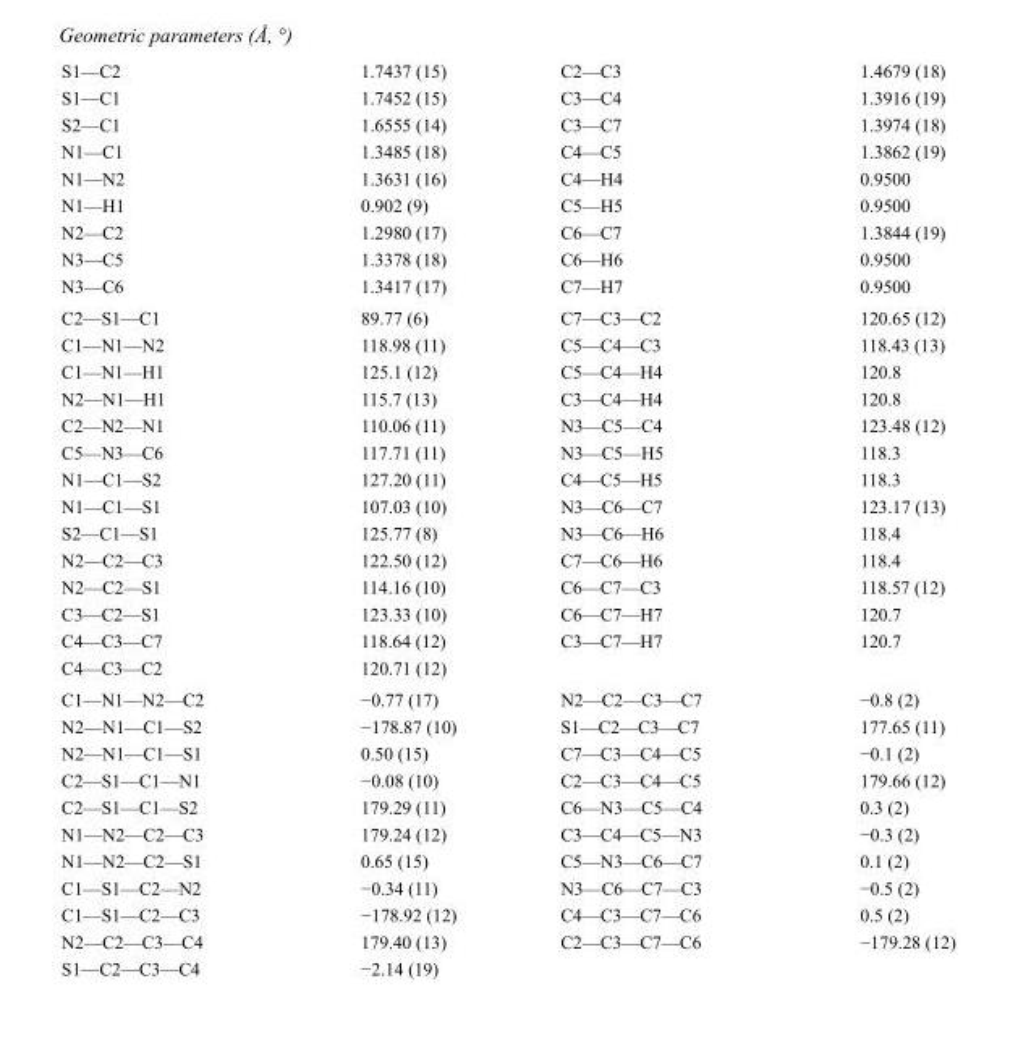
<table><tbody><tr><td>S1—C2</td><td>1.7437 (15)</td><td>C2—C3</td><td>1.4679 (18)</td></tr><tr><td>S1—C1</td><td>1.7452 (15)</td><td>C3—C4</td><td>1.3916 (19)</td></tr><tr><td>S2—C1</td><td>1.6555 (14)</td><td>C3—C7</td><td>1.3974 (18)</td></tr><tr><td>N1—C1</td><td>1.3485 (18)</td><td>C4—C5</td><td>1.3862 (19)</td></tr><tr><td>N1—N2</td><td>1.3631 (16)</td><td>C4—H4</td><td>0.9500</td></tr><tr><td>N1—H1</td><td>0.902 (9)</td><td>C5—H5</td><td>0.9500</td></tr><tr><td>N2—C2</td><td>1.2980 (17)</td><td>C6—C7</td><td>1.3844 (19)</td></tr><tr><td>N3—C5</td><td>1.3378 (18)</td><td>C6—H6</td><td>0.9500</td></tr><tr><td>N3—C6</td><td>1.3417 (17)</td><td>C7—H7</td><td>0.9500</td></tr><tr><td>C2—S1—C1</td><td>89.77 (6)</td><td>C7—C3—C2</td><td>120.65 (12)</td></tr><tr><td>C1—N1—N2</td><td>118.98 (11)</td><td>C5—C4—C3</td><td>118.43 (13)</td></tr><tr><td>C1—N1—H1</td><td>125.1 (12)</td><td>C5—C4—H4</td><td>120.8</td></tr><tr><td>N2—N1—H1</td><td>115.7 (13)</td><td>C3—C4—H4</td><td>120.8</td></tr><tr><td>C2—N2—N1</td><td>110.06 (11)</td><td>N3—C5—C4</td><td>123.48 (12)</td></tr><tr><td>C5—N3—C6</td><td>117.71 (11)</td><td>N3—C5—H5</td><td>118.3</td></tr><tr><td>N1—C1—S2</td><td>127.20 (11)</td><td>C4—C5—H5</td><td>118.3</td></tr><tr><td>N1—C1—S1</td><td>107.03 (10)</td><td>N3—C6—C7</td><td>123.17 (13)</td></tr><tr><td>S2—C1—S1</td><td>125.77 (8)</td><td>N3—C6—H6</td><td>118.4</td></tr><tr><td>N2—C2—C3</td><td>122.50 (12)</td><td>C7—C6—H6</td><td>118.4</td></tr><tr><td>N2—C2—S1</td><td>114.16 (10)</td><td>C6—C7—C3</td><td>118.57 (12)</td></tr><tr><td>C3—C2—S1</td><td>123.33 (10)</td><td>C6—C7—H7</td><td>120.7</td></tr><tr><td>C4—C3—C7</td><td>118.64 (12)</td><td>C3—C7—H7</td><td>120.7</td></tr><tr><td>C4—C3—C2</td><td>120.71 (12)</td><td></td><td></td></tr><tr><td>C1—N1—N2—C2</td><td>−0.77 (17)</td><td>N2—C2—C3—C7</td><td>−0.8 (2)</td></tr><tr><td>N2—N1—C1—S2</td><td>−178.87 (10)</td><td>S1—C2—C3—C7</td><td>177.65 (11)</td></tr><tr><td>N2—N1—C1—S1</td><td>0.50 (15)</td><td>C7—C3—C4—C5</td><td>−0.1 (2)</td></tr><tr><td>C2—S1—C1—N1</td><td>−0.08 (10)</td><td>C2—C3—C4—C5</td><td>179.66 (12)</td></tr><tr><td>C2—S1—C1—S2</td><td>179.29 (11)</td><td>C6—N3—C5—C4</td><td>0.3 (2)</td></tr><tr><td>N1—N2—C2—C3</td><td>179.24 (12)</td><td>C3—C4—C5—N3</td><td>−0.3 (2)</td></tr><tr><td>N1—N2—C2—S1</td><td>0.65 (15)</td><td>C5—N3—C6—C7</td><td>0.1 (2)</td></tr><tr><td>C1—S1—C2—N2</td><td>−0.34 (11)</td><td>N3—C6—C7—C3</td><td>−0.5 (2)</td></tr><tr><td>C1—S1—C2—C3</td><td>−178.92 (12)</td><td>C4—C3—C7—C6</td><td>0.5 (2)</td></tr><tr><td>N2—C2—C3—C4</td><td>179.40 (13)</td><td>C2—C3—C7—C6</td><td>−179.28 (12)</td></tr><tr><td>S1—C2—C3—C4</td><td>−2.14 (19)</td><td></td><td></td></tr></tbody></table>